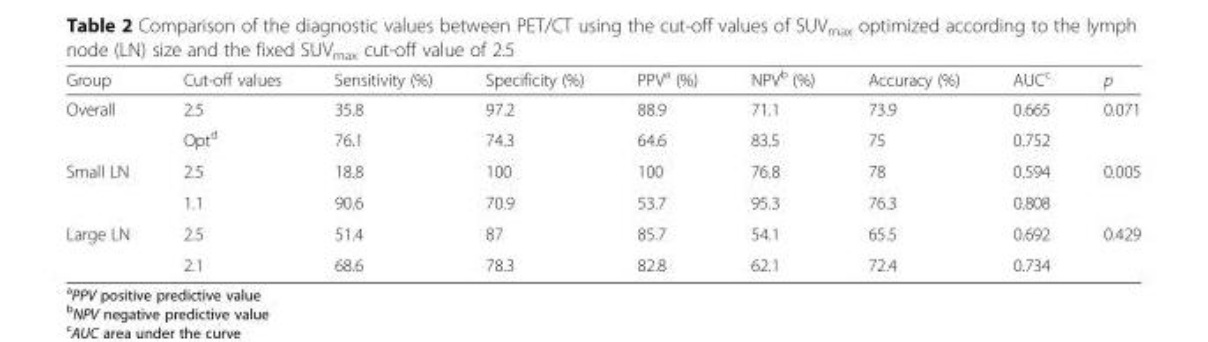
<table><thead><tr><td>Group</td><td>Cut-off values</td><td>Sensitivity (%)</td><td>Specificity (%)</td><td>PPV<sup>a</sup> (%)</td><td>NPV<sup>b</sup> (%)</td><td>Accuracy (%)</td><td>AUC<sup>c</sup></td><td>p</td></tr></thead><tbody><tr><td rowspan="2">Overall</td><td>2.5</td><td>35.8</td><td>97.2</td><td>88.9</td><td>71.1</td><td>73.9</td><td>0.665</td><td rowspan="2">0.071</td></tr><tr><td>Opt<sup>d</sup></td><td>76.1</td><td>74.3</td><td>64.6</td><td>83.5</td><td>75</td><td>0.752</td></tr><tr><td rowspan="2">Small LN</td><td>2.5</td><td>18.8</td><td>100</td><td>100</td><td>76.8</td><td>78</td><td>0.594</td><td rowspan="2">0.005</td></tr><tr><td>1.1</td><td>90.6</td><td>70.9</td><td>53.7</td><td>95.3</td><td>76.3</td><td>0.808</td></tr><tr><td rowspan="2">Large LN</td><td>2.5</td><td>51.4</td><td>87</td><td>85.7</td><td>54.1</td><td>65.5</td><td>0.692</td><td rowspan="2">0.429</td></tr><tr><td>2.1</td><td>68.6</td><td>78.3</td><td>82.8</td><td>62.1</td><td>72.4</td><td>0.734</td></tr></tbody></table>